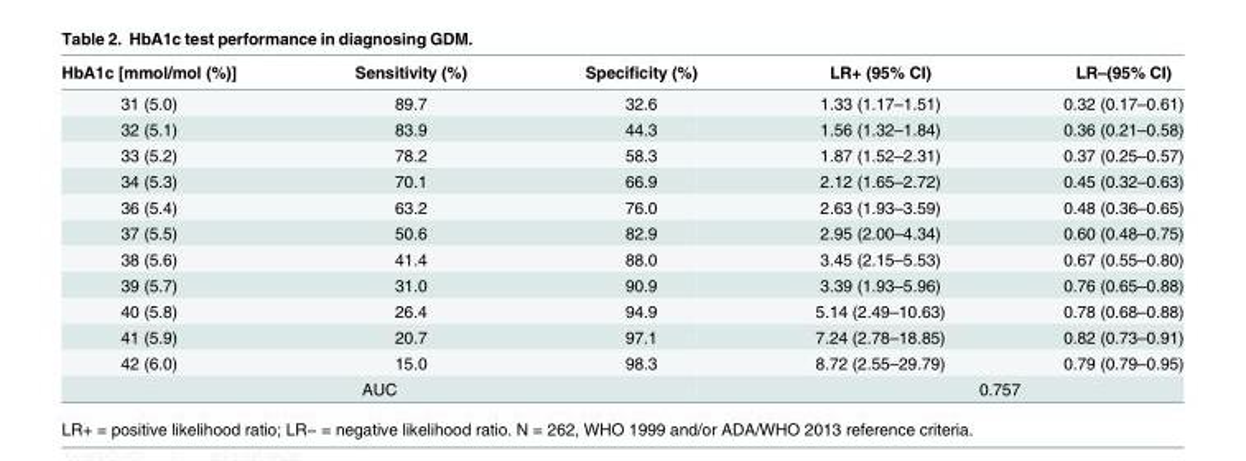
<table><thead><tr><td>HbA1c [mmol/mol (%)]</td><td>Sensitivity (%)</td><td>Specificity (%)</td><td>LR+ (95% CI)</td><td>LR–(95% CI)</td></tr></thead><tbody><tr><td>31 (5.0)</td><td>89.7</td><td>32.6</td><td>1.33 (1.17–1.51)</td><td>0.32 (0.17–0.61)</td></tr><tr><td>32 (5.1)</td><td>83.9</td><td>44.3</td><td>1.56 (1.32–1.84)</td><td>0.36 (0.21–0.58)</td></tr><tr><td>33 (5.2)</td><td>78.2</td><td>58.3</td><td>1.87 (1.52–2.31)</td><td>0.37 (0.25–0.57)</td></tr><tr><td>34 (5.3)</td><td>70.1</td><td>66.9</td><td>2.12 (1.65–2.72)</td><td>0.45 (0.32–0.63)</td></tr><tr><td>36 (5.4)</td><td>63.2</td><td>76.0</td><td>2.63 (1.93–3.59)</td><td>0.48 (0.36–0.65)</td></tr><tr><td>37 (5.5)</td><td>50.6</td><td>82.9</td><td>2.95 (2.00–4.34)</td><td>0.60 (0.48–0.75)</td></tr><tr><td>38 (5.6)</td><td>41.4</td><td>88.0</td><td>3.45 (2.15–5.53)</td><td>0.67 (0.55–0.80)</td></tr><tr><td>39 (5.7)</td><td>31.0</td><td>90.9</td><td>3.39 (1.93–5.96)</td><td>0.76 (0.65–0.88)</td></tr><tr><td>40 (5.8)</td><td>26.4</td><td>94.9</td><td>5.14 (2.49–10.63)</td><td>0.78 (0.68–0.88)</td></tr><tr><td>41 (5.9)</td><td>20.7</td><td>97.1</td><td>7.24 (2.78–18.85)</td><td>0.82 (0.73–0.91)</td></tr><tr><td>42 (6.0)</td><td>15.0</td><td>98.3</td><td>8.72 (2.55–29.79)</td><td>0.79 (0.79–0.95)</td></tr><tr><td colspan="3">AUC</td><td colspan="2">0.757</td></tr></tbody></table>